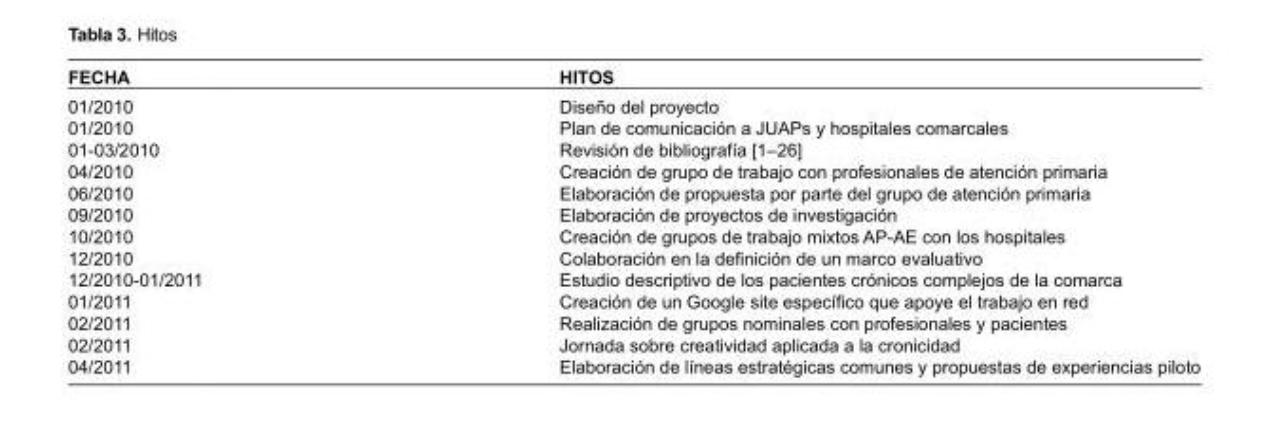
<table><thead><tr><td>FECHA</td><td>HITOS</td></tr></thead><tbody><tr><td>01/2010</td><td>Diseño del proyecto</td></tr><tr><td>01/2010</td><td>Plan de comunicación a JUAPs y hospitales comarcales</td></tr><tr><td>01-03/2010</td><td>Revisión de bibliografía [1–26]</td></tr><tr><td>04/2010</td><td>Creación de grupo de trabajo con profesionales de atención primaria</td></tr><tr><td>06/2010</td><td>Elaboración de propuesta por parte del grupo de atención primaria</td></tr><tr><td>09/2010</td><td>Elaboración de proyectos de investigación</td></tr><tr><td>10/2010</td><td>Creación de grupos de trabajo mixtos AP-AE con los hospitales</td></tr><tr><td>12/2010</td><td>Colaboración en la definición de un marco evaluativo</td></tr><tr><td>12/2010-01/2011</td><td>Estudio descriptivo de los pacientes crónicos complejos de la comarca</td></tr><tr><td>01/2011</td><td>Creación de un Google site específico que apoye el trabajo en red</td></tr><tr><td>02/2011</td><td>Realización de grupos nominales con profesionales y pacientes</td></tr><tr><td>02/2011</td><td>Jornada sobre creatividad aplicada a la cronicidad</td></tr><tr><td>04/2011</td><td>Elaboración de líneas estratégicas comunes y propuestas de experiencias piloto</td></tr></tbody></table>